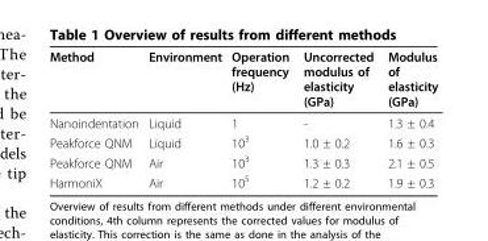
<table><thead><tr><td>Method</td><td>Environment</td><td>Operation frequency (Hz)</td><td>Uncorrected modulus of elasticity (GPa)</td><td>Modulus of elasticity (GPa)</td></tr></thead><tbody><tr><td>Nanoindentation</td><td>Liquid</td><td>1</td><td>-</td><td>1.3 ± 0.4</td></tr><tr><td>Peakforce QNM</td><td>Liquid</td><td>10<sup>3</sup></td><td>1.0 ± 0.2</td><td>1.6 ± 0.3</td></tr><tr><td>Peakforce QNM</td><td>Air</td><td>10<sup>3</sup></td><td>1.3 ± 0.3</td><td>2.1 ± 0.5</td></tr><tr><td>HarmoniX</td><td>Air</td><td>10<sup>5</sup></td><td>1.2 ± 0.2</td><td>1.9 ± 0.3</td></tr></tbody></table>